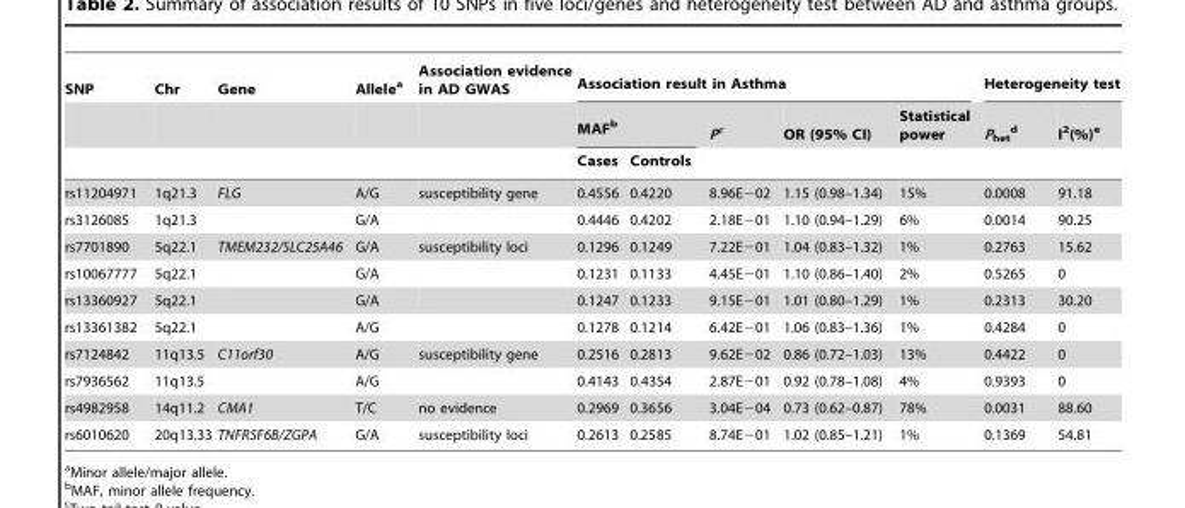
<table><thead><tr><td rowspan="3">SNP</td><td rowspan="3">Chr</td><td rowspan="3">Gene</td><td rowspan="3">Allele<sup>a</sup></td><td rowspan="3">Association evidence in AD GWAS</td><td colspan="5">Association result in Asthma</td><td colspan="2">Heterogeneity test</td></tr><tr><td colspan="2">MAF<sup>b</sup></td><td rowspan="2">Pc</td><td rowspan="2">OR (95% CI)</td><td rowspan="2">Statistical power</td><td rowspan="2">P<sub>het</sub> d</td><td rowspan="2">I<sup>2</sup>(%)<sup>e</sup></td></tr><tr><td>Cases</td><td>Controls</td></tr></thead><tbody><tr><td>rs11204971</td><td>1q21.3</td><td>FLG</td><td>A/G</td><td>susceptibility gene</td><td>0.4556</td><td>0.4220</td><td>8.96E−02</td><td>1.15 (0.98–1.34)</td><td>15%</td><td>0.0008</td><td>91.18</td></tr><tr><td>rs3126085</td><td>1q21.3</td><td></td><td>G/A</td><td></td><td>0.4446</td><td>0.4202</td><td>2.18E−01</td><td>1.10 (0.94–1.29)</td><td>6%</td><td>0.0014</td><td>90.25</td></tr><tr><td>rs7701890</td><td>5q22.1</td><td>TMEM232/SLC25A46</td><td>G/A</td><td>susceptibility loci</td><td>0.1296</td><td>0.1249</td><td>7.22E−01</td><td>1.04 (0.83–1.32)</td><td>1%</td><td>0.2763</td><td>15.62</td></tr><tr><td>rs10067777</td><td>5q22.1</td><td></td><td>G/A</td><td></td><td>0.1231</td><td>0.1133</td><td>4.45E−01</td><td>1.10 (0.86–1.40)</td><td>2%</td><td>0.5265</td><td>0</td></tr><tr><td>rs13360927</td><td>5q22.1</td><td></td><td>G/A</td><td></td><td>0.1247</td><td>0.1233</td><td>9.15E−01</td><td>1.01 (0.80–1.29)</td><td>1%</td><td>0.2313</td><td>30.20</td></tr><tr><td>rs13361382</td><td>5q22.1</td><td></td><td>A/G</td><td></td><td>0.1278</td><td>0.1214</td><td>6.42E−01</td><td>1.06 (0.83–1.36)</td><td>1%</td><td>0.4284</td><td>0</td></tr><tr><td>rs7124842</td><td>11q13.5</td><td>C11orf30</td><td>A/G</td><td>susceptibility gene</td><td>0.2516</td><td>0.2813</td><td>9.62E−02</td><td>0.86 (0.72–1.03)</td><td>13%</td><td>0.4422</td><td>0</td></tr><tr><td>rs7936562</td><td>11q13.5</td><td></td><td>A/G</td><td></td><td>0.4143</td><td>0.4354</td><td>2.87E−01</td><td>0.92 (0.78–1.08)</td><td>4%</td><td>0.9393</td><td>0</td></tr><tr><td>rs4982958</td><td>14q11.2</td><td>CMA1</td><td>T/C</td><td>no evidence</td><td>0.2969</td><td>0.3656</td><td>3.04E−04</td><td>0.73 (0.62–0.87)</td><td>78%</td><td>0.0031</td><td>88.60</td></tr><tr><td>rs6010620</td><td>20q13.33</td><td>TNFRSF6B/ZGPA</td><td>G/A</td><td>susceptibility loci</td><td>0.2613</td><td>0.2585</td><td>8.74E−01</td><td>1.02 (0.85–1.21)</td><td>1%</td><td>0.1369</td><td>54.81</td></tr></tbody></table>